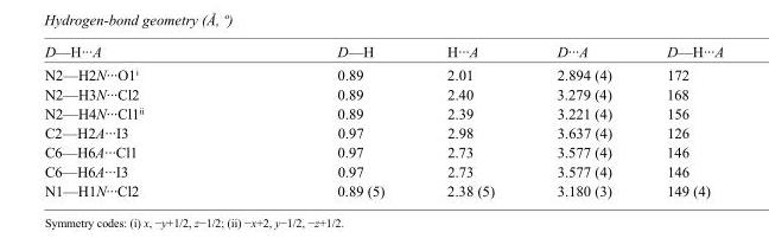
<table><tbody><tr><td>D—H···A</td><td>D—H</td><td>H···A</td><td>D···A</td><td>D—H···A</td></tr><tr><td>N2—H2N···O1<sup>i</sup></td><td>0.89</td><td>2.01</td><td>2.894 (4)</td><td>172</td></tr><tr><td>N2—H3N···Cl2</td><td>0.89</td><td>2.40</td><td>3.279 (4)</td><td>168</td></tr><tr><td>N2—H4N···Cl1<sup>ii</sup></td><td>0.89</td><td>2.39</td><td>3.221 (4)</td><td>156</td></tr><tr><td>C2—H2A···I3</td><td>0.97</td><td>2.98</td><td>3.637 (4)</td><td>126</td></tr><tr><td>C6—H6A···Cl1</td><td>0.97</td><td>2.73</td><td>3.577 (4)</td><td>146</td></tr><tr><td>C6—H6A···I3</td><td>0.97</td><td>2.73</td><td>3.577 (4)</td><td>146</td></tr><tr><td>N1—H1N···Cl2</td><td>0.89 (5)</td><td>2.38 (5)</td><td>3.180 (3)</td><td>149 (4)</td></tr></tbody></table>